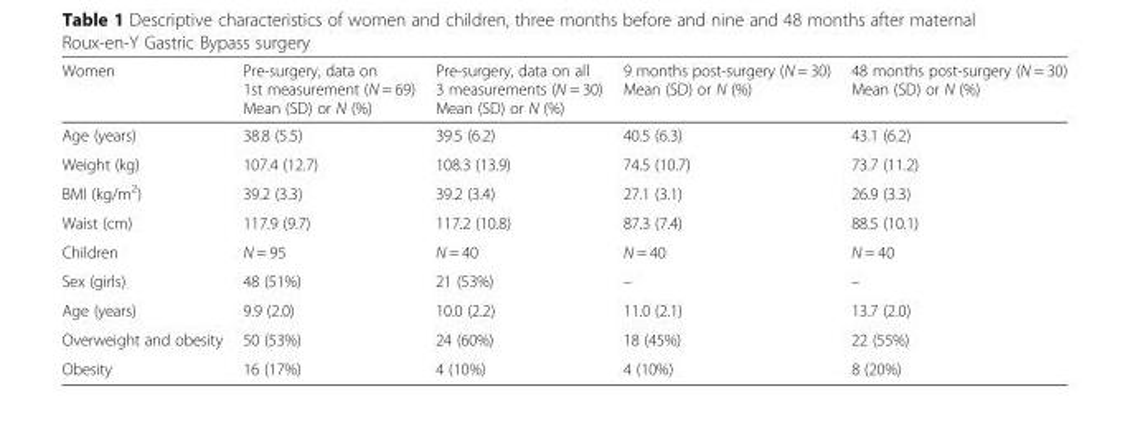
<table><thead><tr><td>Women</td><td>Pre-surgery, data on 1st measurement (N = 69) Mean (SD) or N (%)</td><td>Pre-surgery, data on all 3 measurements (N = 30) Mean (SD) or N (%)</td><td>9 months post-surgery (N = 30) Mean (SD) or N (%)</td><td>48 months post-surgery (N = 30) Mean (SD) or N (%)</td></tr></thead><tbody><tr><td>Age (years)</td><td>38.8 (5.5)</td><td>39.5 (6.2)</td><td>40.5 (6.3)</td><td>43.1 (6.2)</td></tr><tr><td>Weight (kg)</td><td>107.4 (12.7)</td><td>108.3 (13.9)</td><td>74.5 (10.7)</td><td>73.7 (11.2)</td></tr><tr><td>BMI (kg/m<sup>2</sup>)</td><td>39.2 (3.3)</td><td>39.2 (3.4)</td><td>27.1 (3.1)</td><td>26.9 (3.3)</td></tr><tr><td>Waist (cm)</td><td>117.9 (9.7)</td><td>117.2 (10.8)</td><td>87.3 (7.4)</td><td>88.5 (10.1)</td></tr><tr><td>Children</td><td>N = 95</td><td>N = 40</td><td>N = 40</td><td>N = 40</td></tr><tr><td>Sex (girls)</td><td>48 (51%)</td><td>21 (53%)</td><td>–</td><td>–</td></tr><tr><td>Age (years)</td><td>9.9 (2.0)</td><td>10.0 (2.2)</td><td>11.0 (2.1)</td><td>13.7 (2.0)</td></tr><tr><td>Overweight and obesity</td><td>50 (53%)</td><td>24 (60%)</td><td>18 (45%)</td><td>22 (55%)</td></tr><tr><td>Obesity</td><td>16 (17%)</td><td>4 (10%)</td><td>4 (10%)</td><td>8 (20%)</td></tr></tbody></table>